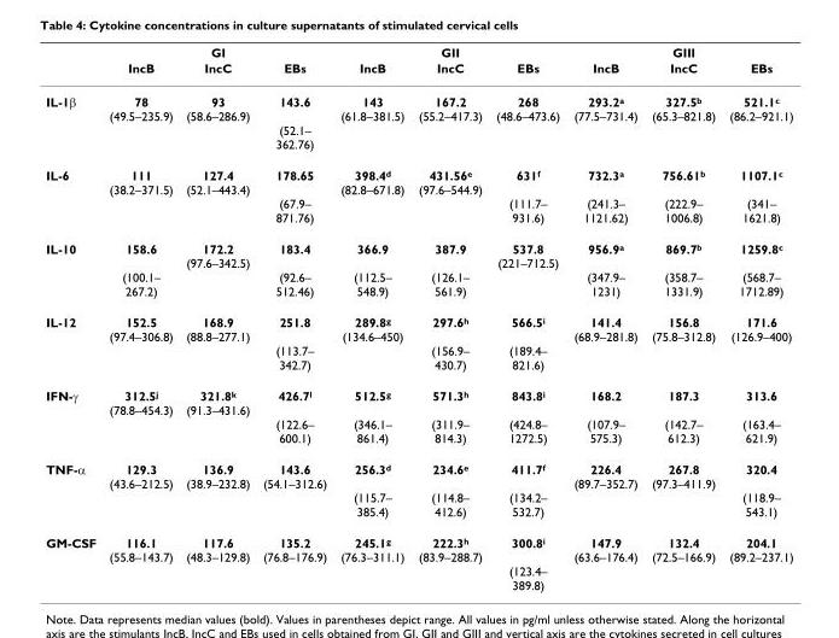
<table><thead><tr><td rowspan="2"></td><td colspan="3">GI</td><td colspan="3">GII</td><td colspan="3">GIII</td></tr><tr><td>IncB</td><td>IncC</td><td>EBs</td><td>IncB</td><td>IncC</td><td>EBs</td><td>IncB</td><td>IncC</td><td>EBs</td></tr></thead><tbody><tr><td>IL-1β</td><td>78 (49.5–235.9)</td><td>93 (58.6–286.9)</td><td>143.6 (52.1– 362.76)</td><td>143 (61.8–381.5)</td><td>167.2 (55.2–417.3)</td><td>268 (48.6–473.6)</td><td>293.2<sup>a</sup> (77.5–731.4)</td><td>327.5<sup>b</sup> (65.3–821.8)</td><td>521.1<sup>c</sup> (86.2–921.1)</td></tr><tr><td>IL-6</td><td>111 (38.2–371.5)</td><td>127.4 (52.1–443.4)</td><td>178.65 (67.9– 871.76)</td><td>398.4<sup>d</sup> (82.8–671.8)</td><td>431.56<sup>e</sup> (97.6–544.9)</td><td>631<sup>f</sup> (111.7– 931.6)</td><td>732.3<sup>a</sup> (241.3– 1121.62)</td><td>756.61<sup>b</sup> (222.9– 1006.8)</td><td>1107.1<sup>c</sup> (341– 1621.8)</td></tr><tr><td>IL-10</td><td>158.6 (100.1– 267.2)</td><td>172.2 (97.6–342.5)</td><td>183.4 (92.6– 512.46)</td><td>366.9 (112.5– 548.9)</td><td>387.9 (126.1– 561.9)</td><td>537.8 (221–712.5)</td><td>956.9<sup>a</sup> (347.9– 1231)</td><td>869.7<sup>b</sup> (358.7– 1331.9)</td><td>1259.8<sup>c</sup> (568.7– 1712.89)</td></tr><tr><td>IL-12</td><td>152.5 (97.4–306.8)</td><td>168.9 (88.8–277.1)</td><td>251.8 (113.7– 342.7)</td><td>289.8<sup>g</sup> (134.6–450)</td><td>297.6<sup>h</sup> (156.9– 430.7)</td><td>566.5<sup>i</sup> (189.4– 821.6)</td><td>141.4 (68.9–281.8)</td><td>156.8 (75.8–312.8)</td><td>171.6 (126.9–400)</td></tr><tr><td>IFN-γ</td><td>312.5<sup>j</sup> (78.8–454.3)</td><td>321.8<sup>k</sup> (91.3–431.6)</td><td>426.7<sup>l</sup> (122.6– 600.1)</td><td>512.5<sup>g</sup> (346.1– 861.4)</td><td>571.3<sup>h</sup> (311.9– 814.3)</td><td>843.8<sup>i</sup> (424.8– 1272.5)</td><td>168.2 (107.9– 575.3)</td><td>187.3 (142.7– 612.3)</td><td>313.6 (163.4– 621.9)</td></tr><tr><td>TNF-α</td><td>129.3 (43.6–212.5)</td><td>136.9 (38.9–232.8)</td><td>143.6 (54.1–312.6)</td><td>256.3<sup>d</sup> (115.7– 385.4)</td><td>234.6<sup>e</sup> (114.8– 412.6)</td><td>411.7<sup>f</sup> (134.2– 532.7)</td><td>226.4 (89.7–352.7)</td><td>267.8 (97.3–411.9)</td><td>320.4 (118.9– 543.1)</td></tr><tr><td>GM-CSF</td><td>116.1 (55.8–143.7)</td><td>117.6 (48.3–129.8)</td><td>135.2 (76.8–176.9)</td><td>245.1<sup>g</sup> (76.3–311.1)</td><td>222.3<sup>h</sup> (83.9–288.7)</td><td>300.8<sup>i</sup> (123.4– 389.8)</td><td>147.9 (63.6–176.4)</td><td>132.4 (72.5–166.9)</td><td>204.1 (89.2–237.1)</td></tr></tbody></table>